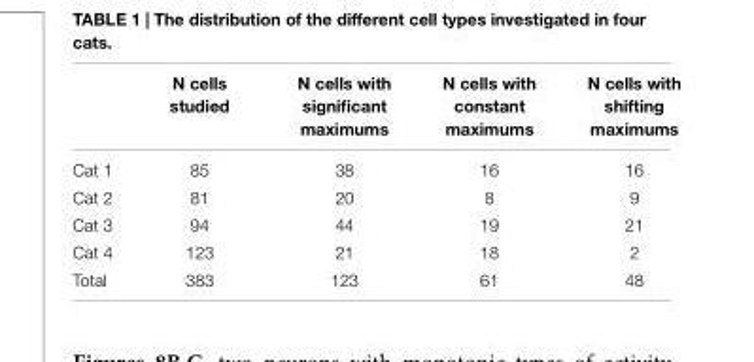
<table><thead><tr><td></td><td>N cells studied</td><td>N cells with significant maximums</td><td>N cells with constant maximums</td><td>N cells with shifting maximums</td></tr></thead><tbody><tr><td>Cat 1</td><td>85</td><td>38</td><td>16</td><td>16</td></tr><tr><td>Cat 2</td><td>81</td><td>20</td><td>8</td><td>9</td></tr><tr><td>Cat 3</td><td>94</td><td>44</td><td>19</td><td>21</td></tr><tr><td>Cat 4</td><td>123</td><td>21</td><td>18</td><td>2</td></tr><tr><td>Total</td><td>383</td><td>123</td><td>61</td><td>48</td></tr></tbody></table>